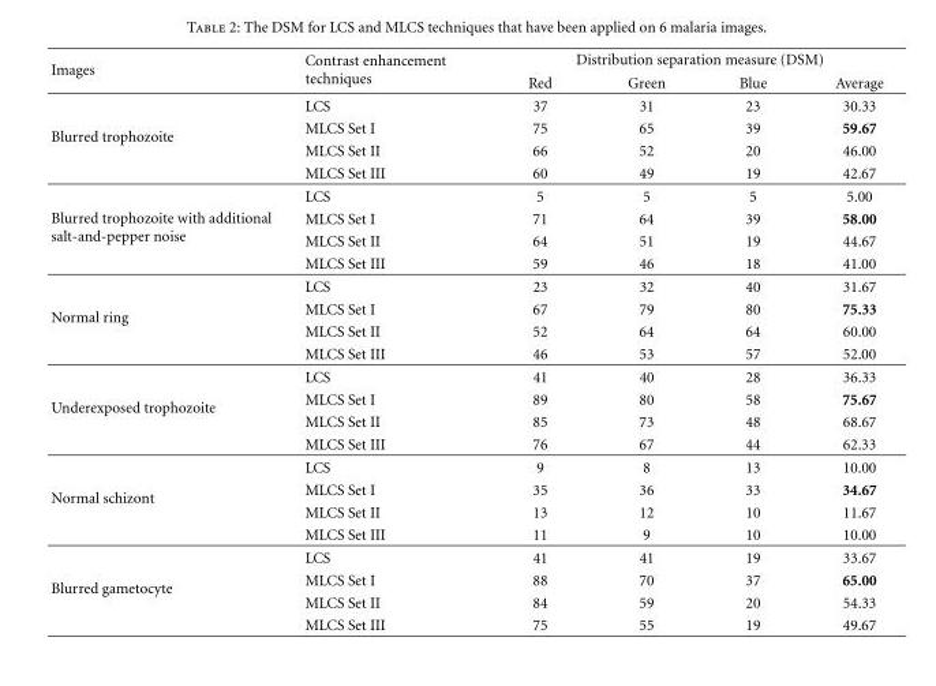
<table><thead><tr><td rowspan="2">Images</td><td rowspan="2">Contrast enhancement techniques</td><td colspan="4">Distribution separation measure (DSM)</td></tr><tr><td>Red</td><td>Green</td><td>Blue</td><td>Average</td></tr></thead><tbody><tr><td rowspan="4">Blurred trophozoite</td><td>LCS</td><td>37</td><td>31</td><td>23</td><td>30.33</td></tr><tr><td>MLCS Set I</td><td>75</td><td>65</td><td>39</td><td>59.67</td></tr><tr><td>MLCS Set II</td><td>66</td><td>52</td><td>20</td><td>46.00</td></tr><tr><td>MLCS Set III</td><td>60</td><td>49</td><td>19</td><td>42.67</td></tr><tr><td rowspan="4">Blurred trophozoite with additional salt-and-pepper noise</td><td>LCS</td><td>5</td><td>5</td><td>5</td><td>5.00</td></tr><tr><td>MLCS Set I</td><td>71</td><td>64</td><td>39</td><td>58.00</td></tr><tr><td>MLCS Set II</td><td>64</td><td>51</td><td>19</td><td>44.67</td></tr><tr><td>MLCS Set III</td><td>59</td><td>46</td><td>18</td><td>41.00</td></tr><tr><td rowspan="4">Normal ring</td><td>LCS</td><td>23</td><td>32</td><td>40</td><td>31.67</td></tr><tr><td>MLCS Set I</td><td>67</td><td>79</td><td>80</td><td>75.33</td></tr><tr><td>MLCS Set II</td><td>52</td><td>64</td><td>64</td><td>60.00</td></tr><tr><td>MLCS Set III</td><td>46</td><td>53</td><td>57</td><td>52.00</td></tr><tr><td rowspan="4">Underexposed trophozoite</td><td>LCS</td><td>41</td><td>40</td><td>28</td><td>36.33</td></tr><tr><td>MLCS Set I</td><td>89</td><td>80</td><td>58</td><td>75.67</td></tr><tr><td>MLCS Set II</td><td>85</td><td>73</td><td>48</td><td>68.67</td></tr><tr><td>MLCS Set III</td><td>76</td><td>67</td><td>44</td><td>62.33</td></tr><tr><td rowspan="4">Normal schizont</td><td>LCS</td><td>9</td><td>8</td><td>13</td><td>10.00</td></tr><tr><td>MLCS Set I</td><td>35</td><td>36</td><td>33</td><td>34.67</td></tr><tr><td>MLCS Set II</td><td>13</td><td>12</td><td>10</td><td>11.67</td></tr><tr><td>MLCS Set III</td><td>11</td><td>9</td><td>10</td><td>10.00</td></tr><tr><td rowspan="4">Blurred gametocyte</td><td>LCS</td><td>41</td><td>41</td><td>19</td><td>33.67</td></tr><tr><td>MLCS Set I</td><td>88</td><td>70</td><td>37</td><td>65.00</td></tr><tr><td>MLCS Set II</td><td>84</td><td>59</td><td>20</td><td>54.33</td></tr><tr><td>MLCS Set III</td><td>75</td><td>55</td><td>19</td><td>49.67</td></tr></tbody></table>